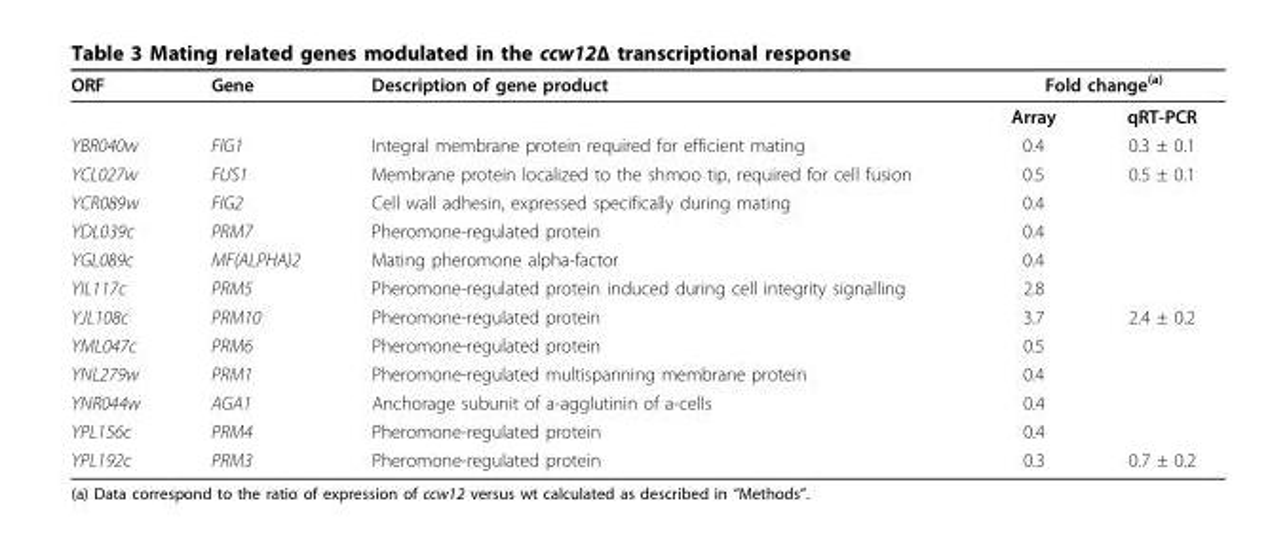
<table><thead><tr><td rowspan="2">ORF</td><td rowspan="2">Gene</td><td rowspan="2">Description of gene product</td><td colspan="2">Fold change<sup>(a)</sup></td></tr><tr><td>Array</td><td>qRT-PCR</td></tr></thead><tbody><tr><td>YBR040w</td><td>FIG1</td><td>Integral membrane protein required for efficient mating</td><td>0.4</td><td>0.3 ± 0.1</td></tr><tr><td>YCL027w</td><td>FUS1</td><td>Membrane protein localized to the shmoo tip, required for cell fusion</td><td>0.5</td><td>0.5 ± 0.1</td></tr><tr><td>YCR089w</td><td>FIG2</td><td>Cell wall adhesin, expressed specifically during mating</td><td>0.4</td><td></td></tr><tr><td>YDL039c</td><td>PRM7</td><td>Pheromone-regulated protein</td><td>0.4</td><td></td></tr><tr><td>YGL089c</td><td>MF(ALPHA)2</td><td>Mating pheromone alpha-factor</td><td>0.4</td><td></td></tr><tr><td>YIL117c</td><td>PRM5</td><td>Pheromone-regulated protein induced during cell integrity signalling</td><td>2.8</td><td></td></tr><tr><td>YJL108c</td><td>PRM10</td><td>Pheromone-regulated protein</td><td>3.7</td><td>2.4 ± 0.2</td></tr><tr><td>YML047c</td><td>PRM6</td><td>Pheromone-regulated protein</td><td>0.5</td><td></td></tr><tr><td>YNL279w</td><td>PRM1</td><td>Pheromone-regulated multispanning membrane protein</td><td>0.4</td><td></td></tr><tr><td>YNR044w</td><td>AGA1</td><td>Anchorage subunit of a-agglutinin of a-cells</td><td>0.4</td><td></td></tr><tr><td>YPL156c</td><td>PRM4</td><td>Pheromone-regulated protein</td><td>0.4</td><td></td></tr><tr><td>YPL192c</td><td>PRM3</td><td>Pheromone-regulated protein</td><td>0.3</td><td>0.7 ± 0.2</td></tr></tbody></table>